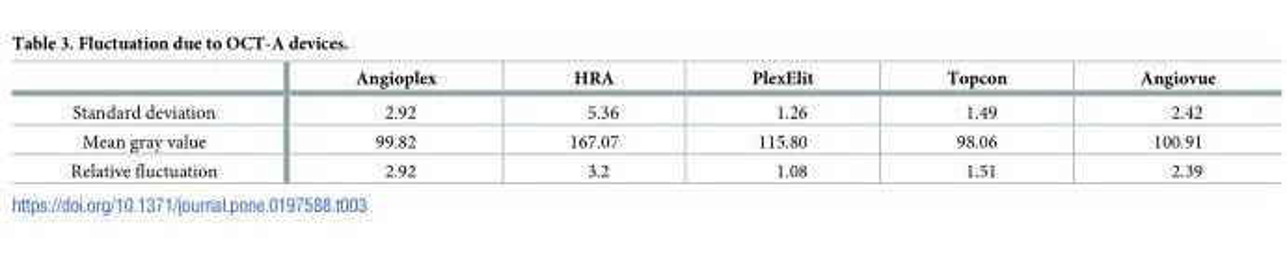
<table><thead><tr><td></td><td>Angioplex</td><td>HRA</td><td>PlexElit</td><td>Topcon</td><td>Angiovue</td></tr></thead><tbody><tr><td>Standard deviation</td><td>2.92</td><td>5.36</td><td>1.26</td><td>1.49</td><td>2.42</td></tr><tr><td>Mean gray value</td><td>99.82</td><td>167.07</td><td>115.80</td><td>98.06</td><td>100.91</td></tr><tr><td>Relative fluctuation</td><td>2.92</td><td>3.2</td><td>1.08</td><td>1.51</td><td>2.39</td></tr></tbody></table>